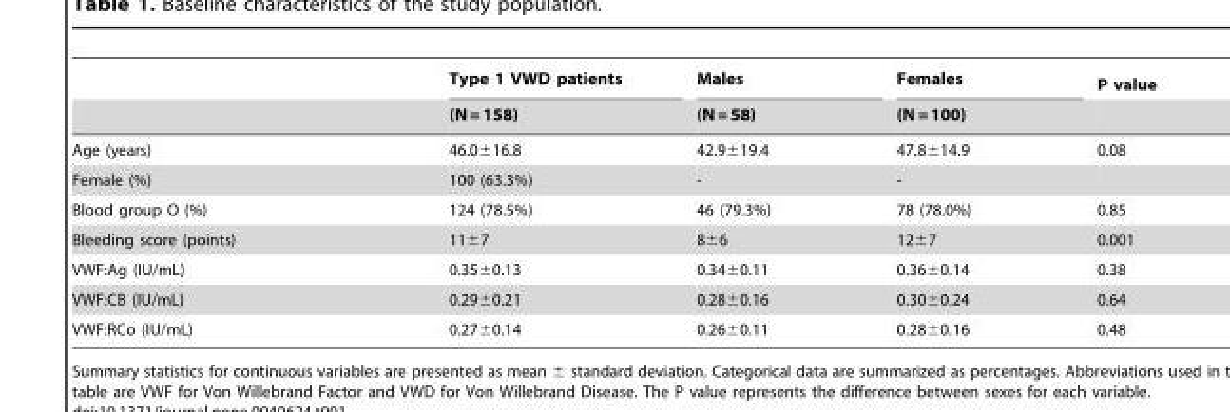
<table><thead><tr><td rowspan="2"></td><td rowspan="2">Type 1 VWD patients (N = 158)</td><td rowspan="2">Males (N = 58)</td><td rowspan="2">Females (N = 100)</td><td rowspan="2">P value</td></tr><tr></tr></thead><tbody><tr><td>Age (years)</td><td>46.0±16.8</td><td>42.9±19.4</td><td>47.8±14.9</td><td>0.08</td></tr><tr><td>Female (%)</td><td>100 (63.3%)</td><td>-</td><td>-</td><td></td></tr><tr><td>Blood group O (%)</td><td>124 (78.5%)</td><td>46 (79.3%)</td><td>78 (78.0%)</td><td>0.85</td></tr><tr><td>Bleeding score (points)</td><td>11±7</td><td>8±6</td><td>12±7</td><td>0.001</td></tr><tr><td>VWF:Ag (IU/mL)</td><td>0.35±0.13</td><td>0.34±0.11</td><td>0.36±0.14</td><td>0.38</td></tr><tr><td>VWF:CB (IU/mL)</td><td>0.29±0.21</td><td>0.28±0.16</td><td>0.30±0.24</td><td>0.64</td></tr><tr><td>VWF:RCo (IU/mL)</td><td>0.27±0.14</td><td>0.26±0.11</td><td>0.28±0.16</td><td>0.48</td></tr></tbody></table>